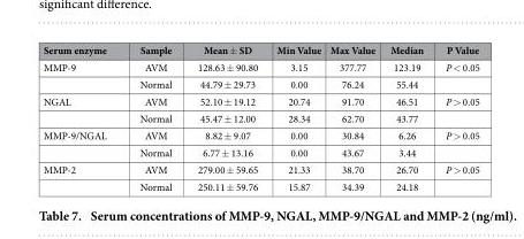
<table><thead><tr><td>Serum enzyme</td><td>Sample</td><td>Mean ± SD</td><td>Min Value</td><td>Max Value</td><td>Median</td><td>P Value</td></tr></thead><tbody><tr><td rowspan="2">MMP-9</td><td>AVM</td><td>128.63 ± 90.80</td><td>3.15</td><td>377.77</td><td>123.19</td><td>P &lt; 0.05</td></tr><tr><td>Normal</td><td>44.79 ± 29.73</td><td>0.00</td><td>76.24</td><td>55.44</td><td></td></tr><tr><td rowspan="2">NGAL</td><td>AVM</td><td>52.10 ± 19.12</td><td>20.74</td><td>91.70</td><td>46.51</td><td>P &gt; 0.05</td></tr><tr><td>Normal</td><td>45.47 ± 12.00</td><td>28.34</td><td>62.70</td><td>43.77</td><td></td></tr><tr><td rowspan="2">MMP-9/NGAL</td><td>AVM</td><td>8.82 ± 9.07</td><td>0.00</td><td>30.84</td><td>6.26</td><td>P &gt; 0.05</td></tr><tr><td>Normal</td><td>6.77 ± 13.16</td><td>0.00</td><td>43.67</td><td>3.44</td><td></td></tr><tr><td rowspan="2">MMP-2</td><td>AVM</td><td>279.00 ± 59.65</td><td>21.33</td><td>38.70</td><td>26.70</td><td>P &gt; 0.05</td></tr><tr><td>Normal</td><td>250.11 ± 59.76</td><td>15.87</td><td>34.39</td><td>24.18</td><td></td></tr></tbody></table>